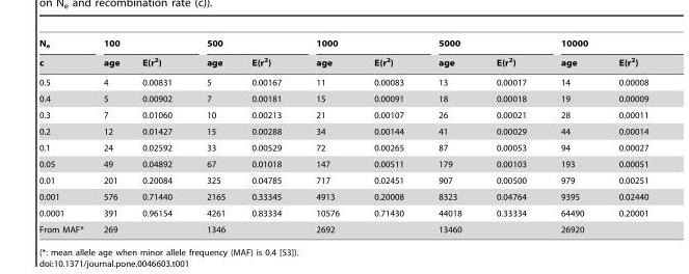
<table><thead><tr><td rowspan="2">N<sub>e</sub> c</td><td colspan="2">100</td><td colspan="2">500</td><td colspan="2">1000</td><td colspan="2">5000</td><td colspan="2">10000</td></tr><tr><td>age</td><td>E(r<sup>2</sup>)</td><td>age</td><td>E(r<sup>2</sup>)</td><td>age</td><td>E(r<sup>2</sup>)</td><td>age</td><td>E(r<sup>2</sup>)</td><td>age</td><td>E(r<sup>2</sup>)</td></tr></thead><tbody><tr><td>0.5</td><td>4</td><td>0.00831</td><td>5</td><td>0.00167</td><td>11</td><td>0.00083</td><td>13</td><td>0.00017</td><td>14</td><td>0.00008</td></tr><tr><td>0.4</td><td>5</td><td>0.00902</td><td>7</td><td>0.00181</td><td>15</td><td>0.00091</td><td>18</td><td>0.00018</td><td>19</td><td>0.00009</td></tr><tr><td>0.3</td><td>7</td><td>0.01060</td><td>10</td><td>0.00213</td><td>21</td><td>0.00107</td><td>26</td><td>0.00021</td><td>28</td><td>0.00011</td></tr><tr><td>0.2</td><td>12</td><td>0.01427</td><td>15</td><td>0.00288</td><td>34</td><td>0.00144</td><td>41</td><td>0.00029</td><td>44</td><td>0.00014</td></tr><tr><td>0.1</td><td>24</td><td>0.02592</td><td>33</td><td>0.00529</td><td>72</td><td>0.00265</td><td>87</td><td>0.00053</td><td>94</td><td>0.00027</td></tr><tr><td>0.05</td><td>49</td><td>0.04892</td><td>67</td><td>0.01018</td><td>147</td><td>0.00511</td><td>179</td><td>0.00103</td><td>193</td><td>0.00051</td></tr><tr><td>0.01</td><td>201</td><td>0.20084</td><td>325</td><td>0.04785</td><td>717</td><td>0.02451</td><td>907</td><td>0.00500</td><td>979</td><td>0.00251</td></tr><tr><td>0.001</td><td>576</td><td>0.71440</td><td>2165</td><td>0.33345</td><td>4913</td><td>0.20008</td><td>8323</td><td>0.04764</td><td>9395</td><td>0.02440</td></tr><tr><td>0.0001</td><td>391</td><td>0.96154</td><td>4261</td><td>0.83334</td><td>10576</td><td>0.71430</td><td>44018</td><td>0.33334</td><td>64490</td><td>0.20001</td></tr><tr><td>From MAF*</td><td colspan="2">269</td><td colspan="2">1346</td><td colspan="2">2692</td><td colspan="2">13460</td><td colspan="2">26920</td></tr></tbody></table>